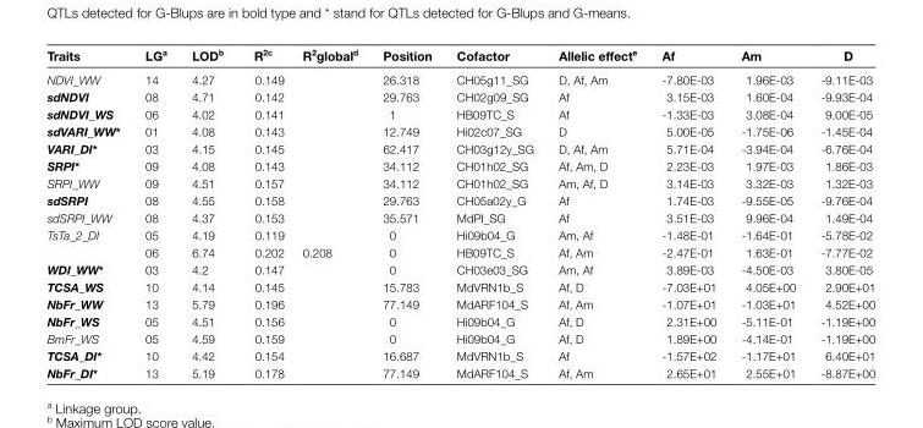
<table><thead><tr><td>Traits</td><td>LG<sup>a</sup></td><td>LOD<sup>b</sup></td><td>R<sup>2c</sup></td><td>R<sup>2</sup>global<sup>d</sup></td><td>Position</td><td>Cofactor</td><td>Allelic effect<sup>e</sup></td><td>Af</td><td>Am</td><td>D</td></tr></thead><tbody><tr><td>NDVI_WW</td><td>14</td><td>4.27</td><td>0.149</td><td></td><td>26.318</td><td>CH05g11_SG</td><td>D, Af, Am</td><td>-7.80E-03</td><td>1.96E-03</td><td>-9.11E-03</td></tr><tr><td>sdNDVI</td><td>08</td><td>4.71</td><td>0.142</td><td></td><td>29.763</td><td>CH02g09_SG</td><td>Af</td><td>3.15E-03</td><td>1.60E-04</td><td>-9.93E-04</td></tr><tr><td>sdNDVI_WS</td><td>06</td><td>4.02</td><td>0.141</td><td></td><td>1</td><td>HB09TC_S</td><td>Af</td><td>-1.33E-03</td><td>3.08E-04</td><td>9.00E-05</td></tr><tr><td>sdVARI_WW*</td><td>01</td><td>4.08</td><td>0.143</td><td></td><td>12.749</td><td>Hi02c07_SG</td><td>D</td><td>5.00E-05</td><td>-1.75E-06</td><td>-1.45E-04</td></tr><tr><td>VARI_DI*</td><td>03</td><td>4.15</td><td>0.145</td><td></td><td>62.417</td><td>CH03g12y_SG</td><td>D, Af, Am</td><td>5.71E-04</td><td>-3.94E-04</td><td>-6.76E-04</td></tr><tr><td>SRPI*</td><td>09</td><td>4.08</td><td>0.143</td><td></td><td>34.112</td><td>CH01h02_SG</td><td>Af, Am, D</td><td>2.23E-03</td><td>1.97E-03</td><td>1.86E-03</td></tr><tr><td>SRPI_WW</td><td>09</td><td>4.51</td><td>0.157</td><td></td><td>34.112</td><td>CH01h02_SG</td><td>Am, Af, D</td><td>3.14E-03</td><td>3.32E-03</td><td>1.32E-03</td></tr><tr><td>sdSRPI</td><td>08</td><td>4.55</td><td>0.158</td><td></td><td>29.763</td><td>CH05a02y_G</td><td>Af</td><td>1.74E-03</td><td>-9.55E-05</td><td>-9.76E-04</td></tr><tr><td>sdSRPI_WW</td><td>08</td><td>4.37</td><td>0.153</td><td></td><td>35.571</td><td>MdPI_SG</td><td>Af</td><td>3.51E-03</td><td>9.96E-04</td><td>1.49E-04</td></tr><tr><td rowspan="2">TsTa_2_DI</td><td>05</td><td>4.19</td><td>0.119</td><td></td><td>0</td><td>Hi09b04_G</td><td>Am, Af</td><td>-1.48E-01</td><td>-1.64E-01</td><td>-5.78E-02</td></tr><tr><td>06</td><td>6.74</td><td>0.202</td><td>0.208</td><td>0</td><td>HB09TC_S</td><td>Af, Am</td><td>-2.47E-01</td><td>1.63E-01</td><td>-7.77E-02</td></tr><tr><td>WDI_WW*</td><td>03</td><td>4.2</td><td>0.147</td><td></td><td>0</td><td>CH03e03_SG</td><td>Am, Af</td><td>3.89E-03</td><td>-4.50E-03</td><td>3.80E-05</td></tr><tr><td>TCSA_WS</td><td>10</td><td>4.14</td><td>0.145</td><td></td><td>15.783</td><td>MdVRN1b_S</td><td>Af, D</td><td>-7.03E+01</td><td>4.05E+00</td><td>2.90E+01</td></tr><tr><td>NbFr_WW</td><td>13</td><td>5.79</td><td>0.196</td><td></td><td>77.149</td><td>MdARF104_S</td><td>Af, Am</td><td>-1.07E+01</td><td>-1.03E+01</td><td>4.52E+00</td></tr><tr><td>NbFr_WS</td><td>05</td><td>4.51</td><td>0.156</td><td></td><td>0</td><td>Hi09b04_G</td><td>Af, D</td><td>2.31E+00</td><td>-5.11E-01</td><td>-1.19E+00</td></tr><tr><td>BmFr_WS</td><td>05</td><td>4.59</td><td>0.159</td><td></td><td>0</td><td>Hi09b04_G</td><td>Af, D</td><td>1.89E+00</td><td>-4.14E-01</td><td>-1.19E+00</td></tr><tr><td>TCSA_DI*</td><td>10</td><td>4.42</td><td>0.154</td><td></td><td>16.687</td><td>MdVRN1b_S</td><td>Af</td><td>-1.57E+02</td><td>-1.17E+01</td><td>6.40E+01</td></tr><tr><td>NbFr_DI*</td><td>13</td><td>5.19</td><td>0.178</td><td></td><td>77.149</td><td>MdARF104_S</td><td>Af, Am</td><td>2.65E+01</td><td>2.55E+01</td><td>-8.87E+00</td></tr></tbody></table>